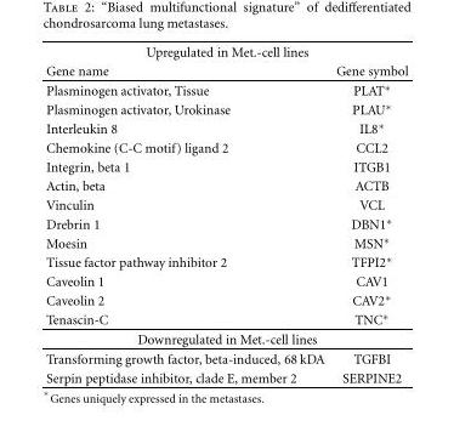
<table><thead><tr><td colspan="2">Upregulated in Met.-cell lines</td></tr><tr><td>Gene name</td><td>Gene symbol</td></tr></thead><tbody><tr><td>Plasminogen activator, Tissue</td><td>PLAT∗</td></tr><tr><td>Plasminogen activator, Urokinase</td><td>PLAU∗</td></tr><tr><td>Interleukin 8</td><td>IL8∗</td></tr><tr><td>Chemokine (C-C motif) ligand 2</td><td>CCL2</td></tr><tr><td>Integrin, beta 1</td><td>ITGB1</td></tr><tr><td>Actin, beta</td><td>ACTB</td></tr><tr><td>Vinculin</td><td>VCL</td></tr><tr><td>Drebrin 1</td><td>DBN1∗</td></tr><tr><td>Moesin</td><td>MSN∗</td></tr><tr><td>Tissue factor pathway inhibitor 2</td><td>TFPI2∗</td></tr><tr><td>Caveolin 1</td><td>CAV1</td></tr><tr><td>Caveolin 2</td><td>CAV2∗</td></tr><tr><td>Tenascin-C</td><td>TNC∗</td></tr><tr><td colspan="2">Downregulated in Met.-cell lines</td></tr><tr><td>Transforming growth factor, beta-induced, 68 kDA</td><td>TGFBI</td></tr><tr><td>Serpin peptidase inhibitor, clade E, member 2</td><td>SERPINE2</td></tr></tbody></table>